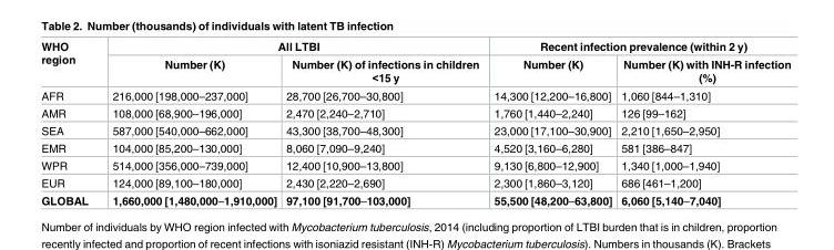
<table><thead><tr><td rowspan="2">WHO region</td><td colspan="2">All LTBI</td><td colspan="2">Recent infection prevalence (within 2 y)</td></tr><tr><td>Number (K)</td><td>Number (K) of infections in children &lt;15 y</td><td>Number (K)</td><td>Number (K) with INH-R infection (%)</td></tr></thead><tbody><tr><td>AFR</td><td>216,000 [198,000–237,000]</td><td>28,700 [26,700–30,800]</td><td>14,300 [12,200–16,800]</td><td>1,060 [844–1,310]</td></tr><tr><td>AMR</td><td>108,000 [68,900–196,000]</td><td>2,470 [2,240–2,710]</td><td>1,760 [1,440–2,240]</td><td>126 [99–162]</td></tr><tr><td>SEA</td><td>587,000 [540,000–662,000]</td><td>43,300 [38,700–48,300]</td><td>23,000 [17,100–30,900]</td><td>2,210 [1,650–2,950]</td></tr><tr><td>EMR</td><td>104,000 [85,200–130,000]</td><td>8,060 [7,090–9,240]</td><td>4,520 [3,160–6,280]</td><td>581 [386–847]</td></tr><tr><td>WPR</td><td>514,000 [356,000–739,000]</td><td>12,400 [10,900–13,800]</td><td>9,130 [6,800–12,900]</td><td>1,340 [1,000–1,940]</td></tr><tr><td>EUR</td><td>124,000 [89,100–180,000]</td><td>2,430 [2,220–2,690]</td><td>2,300 [1,860–3,120]</td><td>686 [461–1,200]</td></tr><tr><td>GLOBAL</td><td>1,660,000 [1,480,000–1,910,000]</td><td>97,100 [91,700–103,000]</td><td>55,500 [48,200–63,800]</td><td>6,060 [5,140–7,040]</td></tr></tbody></table>